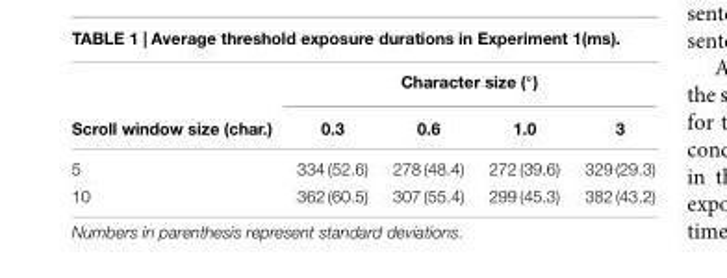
<table><thead><tr><td rowspan="2">Scroll window size (char.)</td><td colspan="4">Character size (◦)</td></tr><tr><td>0.3</td><td>0.6</td><td>1.0</td><td>3</td></tr></thead><tbody><tr><td>5</td><td>334 (52.6)</td><td>278 (48.4)</td><td>272 (39.6)</td><td>329 (29.3)</td></tr><tr><td>10</td><td>362 (60.5)</td><td>307 (55.4)</td><td>299 (45.3)</td><td>382 (43.2)</td></tr></tbody></table>